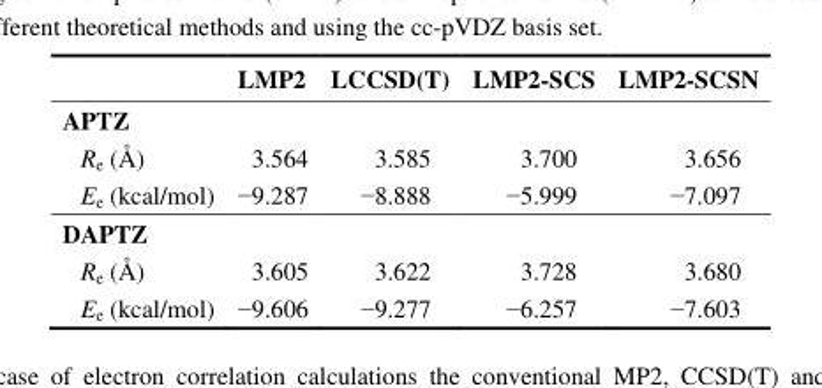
<table><thead><tr><td></td><td>LMP2</td><td>LCCSD(T)</td><td>LMP2-SCS</td><td>LMP2-SCSN</td></tr></thead><tbody><tr><td colspan="5">APTZ</td></tr><tr><td>R<sub>e</sub> (Å)</td><td>3.564</td><td>3.585</td><td>3.700</td><td>3.656</td></tr><tr><td>E<sub>e</sub> (kcal/mol)</td><td>−9.287</td><td>−8.888</td><td>−5.999</td><td>−7.097</td></tr><tr><td colspan="5">DAPTZ</td></tr><tr><td>R<sub>e</sub> (Å)</td><td>3.605</td><td>3.622</td><td>3.728</td><td>3.680</td></tr><tr><td>E<sub>e</sub> (kcal/mol)</td><td>−9.606</td><td>−9.277</td><td>−6.257</td><td>−7.603</td></tr></tbody></table>